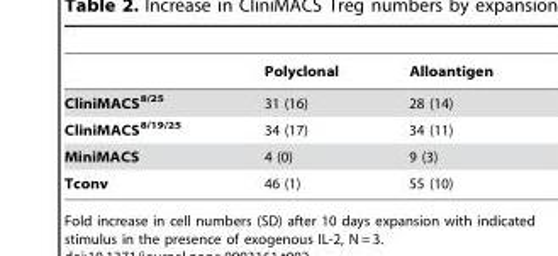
<table><thead><tr><td></td><td>Polyclonal</td><td>Alloantigen</td></tr></thead><tbody><tr><td>CliniMACS<sup>8/25</sup></td><td>31 (16)</td><td>28 (14)</td></tr><tr><td>CliniMACS<sup>8/19/25</sup></td><td>34 (17)</td><td>34 (11)</td></tr><tr><td>MiniMACS</td><td>4 (0)</td><td>9 (3)</td></tr><tr><td>Tconv</td><td>46 (1)</td><td>55 (10)</td></tr></tbody></table>